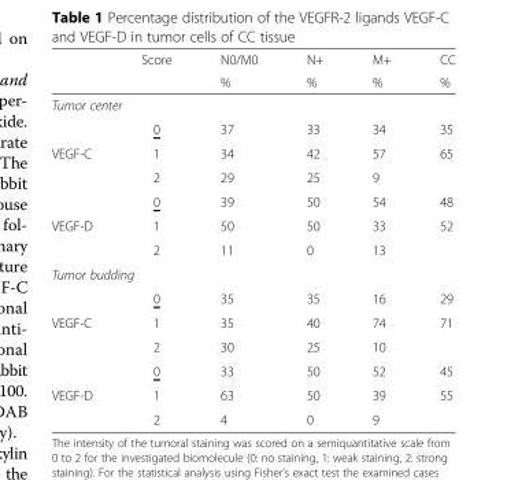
<table><thead><tr><td rowspan="2"></td><td rowspan="2">Score</td><td rowspan="2">N0/M0 %</td><td rowspan="2">N+ %</td><td rowspan="2">M+ %</td><td rowspan="2">CC %</td></tr><tr></tr></thead><tbody><tr><td colspan="6">Tumor center</td></tr><tr><td></td><td>0</td><td>37</td><td>33</td><td>34</td><td>35</td></tr><tr><td rowspan="3">VEGF-C</td><td>1</td><td>34</td><td>42</td><td>57</td><td rowspan="2">65</td></tr><tr><td>2</td><td>29</td><td>25</td><td>9</td></tr><tr><td>0</td><td>39</td><td>50</td><td>54</td><td>48</td></tr><tr><td rowspan="2">VEGF-D</td><td>1</td><td>50</td><td>50</td><td>33</td><td rowspan="2">52</td></tr><tr><td>2</td><td>11</td><td>0</td><td>13</td></tr><tr><td colspan="6">Tumor budding</td></tr><tr><td></td><td>0</td><td>35</td><td>35</td><td>16</td><td>29</td></tr><tr><td rowspan="3">VEGF-C</td><td>1</td><td>35</td><td>40</td><td>74</td><td rowspan="2">71</td></tr><tr><td>2</td><td>30</td><td>25</td><td>10</td></tr><tr><td>0</td><td>33</td><td>50</td><td>52</td><td>45</td></tr><tr><td rowspan="2">VEGF-D</td><td>1</td><td>63</td><td>50</td><td>39</td><td rowspan="2">55</td></tr><tr><td>2</td><td>4</td><td>0</td><td>9</td></tr></tbody></table>